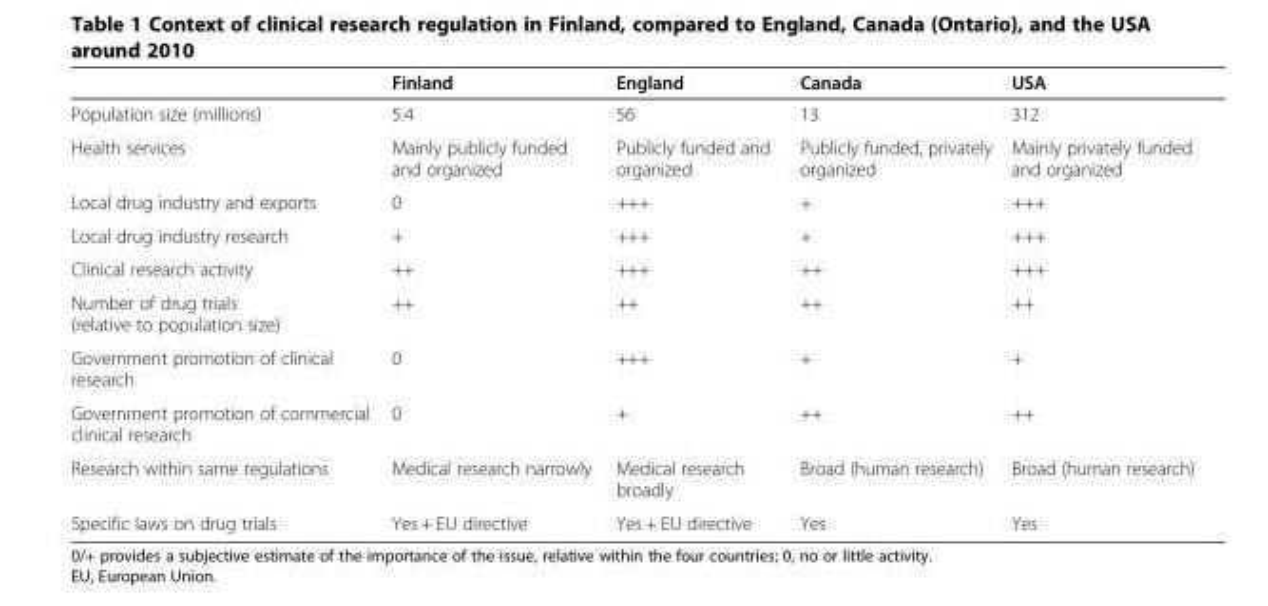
<table><thead><tr><td></td><td>Finland</td><td>England</td><td>Canada</td><td>USA</td></tr></thead><tbody><tr><td>Population size (millions)</td><td>5.4</td><td>56</td><td>13</td><td>312</td></tr><tr><td>Health services</td><td>Mainly publicly funded and organized</td><td>Publicly funded and organized</td><td>Publicly funded, privately organized</td><td>Mainly privately funded and organized</td></tr><tr><td>Local drug industry and exports</td><td>0</td><td>+++</td><td>+</td><td>+++</td></tr><tr><td>Local drug industry research</td><td>+</td><td>+++</td><td>+</td><td>+++</td></tr><tr><td>Clinical research activity</td><td>++</td><td>+++</td><td>++</td><td>+++</td></tr><tr><td>Number of drug trials (relative to population size)</td><td>++</td><td>++</td><td>++</td><td>++</td></tr><tr><td>Government promotion of clinical research</td><td>0</td><td>+++</td><td>+</td><td>+</td></tr><tr><td>Government promotion of commercial clinical research</td><td>0</td><td>+</td><td>++</td><td>++</td></tr><tr><td>Research within same regulations</td><td>Medical research narrowly</td><td>Medical research broadly</td><td>Broad (human research)</td><td>Broad (human research)</td></tr><tr><td>Specific laws on drug trials</td><td>Yes + EU directive</td><td>Yes + EU directive</td><td>Yes</td><td>Yes</td></tr></tbody></table>